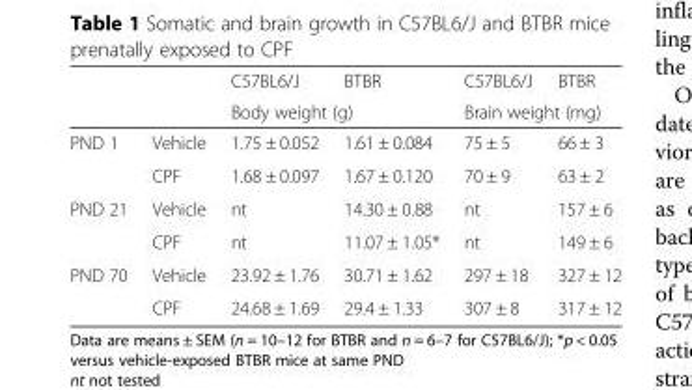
<table><thead><tr><td rowspan="2"></td><td rowspan="2"></td><td>C57BL6/J</td><td>BTBR</td><td>C57BL6/J</td><td>BTBR</td></tr><tr><td colspan="2">Body weight (g)</td><td colspan="2">Brain weight (mg)</td></tr></thead><tbody><tr><td rowspan="2">PND 1</td><td>Vehicle</td><td>1.75 ± 0.052</td><td>1.61 ± 0.084</td><td>75 ± 5</td><td>66 ± 3</td></tr><tr><td>CPF</td><td>1.68 ± 0.097</td><td>1.67 ± 0.120</td><td>70 ± 9</td><td>63 ± 2</td></tr><tr><td rowspan="2">PND 21</td><td>Vehicle</td><td>nt</td><td>14.30 ± 0.88</td><td>nt</td><td>157 ± 6</td></tr><tr><td>CPF</td><td>nt</td><td>11.07 ± 1.05*</td><td>nt</td><td>149 ± 6</td></tr><tr><td rowspan="2">PND 70</td><td>Vehicle</td><td>23.92 ± 1.76</td><td>30.71 ± 1.62</td><td>297 ± 18</td><td>327 ± 12</td></tr><tr><td>CPF</td><td>24.68 ± 1.69</td><td>29.4 ± 1.33</td><td>307 ± 8</td><td>317 ± 12</td></tr></tbody></table>